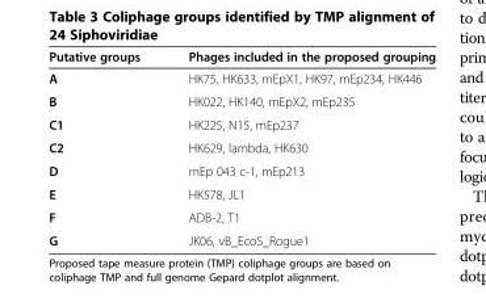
<table><thead><tr><td>Putative groups</td><td>Phages included in the proposed grouping</td></tr></thead><tbody><tr><td>A</td><td>HK75, HK633, mEpX1, HK97, mEp234, HK446</td></tr><tr><td>B</td><td>HK022, HK140, mEpX2, mEp235</td></tr><tr><td>C1</td><td>HK225, N15, mEp237</td></tr><tr><td>C2</td><td>HK629, lambda, HK630</td></tr><tr><td>D</td><td>mEp 043 c-1, mEp213</td></tr><tr><td>E</td><td>HK578, JL1</td></tr><tr><td>F</td><td>ADB-2, T1</td></tr><tr><td>G</td><td>JK06, vB_EcoS_Rogue1</td></tr></tbody></table>